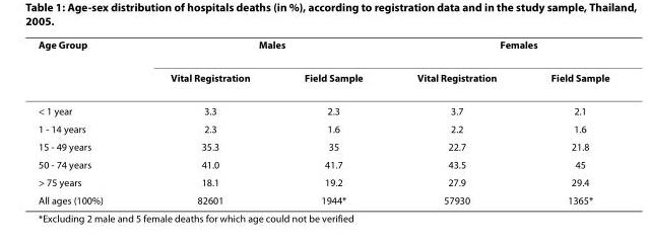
<table><thead><tr><td rowspan="2">Age Group</td><td colspan="2">Males</td><td colspan="2">Females</td></tr><tr><td>Vital Registration</td><td>Field Sample</td><td>Vital Registration</td><td>Field Sample</td></tr></thead><tbody><tr><td>&lt; 1 year</td><td>3.3</td><td>2.3</td><td>3.7</td><td>2.1</td></tr><tr><td>1 - 14 years</td><td>2.3</td><td>1.6</td><td>2.2</td><td>1.6</td></tr><tr><td>15 - 49 years</td><td>35.3</td><td>35</td><td>22.7</td><td>21.8</td></tr><tr><td>50 - 74 years</td><td>41.0</td><td>41.7</td><td>43.5</td><td>45</td></tr><tr><td>&gt; 75 years</td><td>18.1</td><td>19.2</td><td>27.9</td><td>29.4</td></tr><tr><td>All ages (100%)</td><td>82601</td><td>1944*</td><td>57930</td><td>1365*</td></tr></tbody></table>